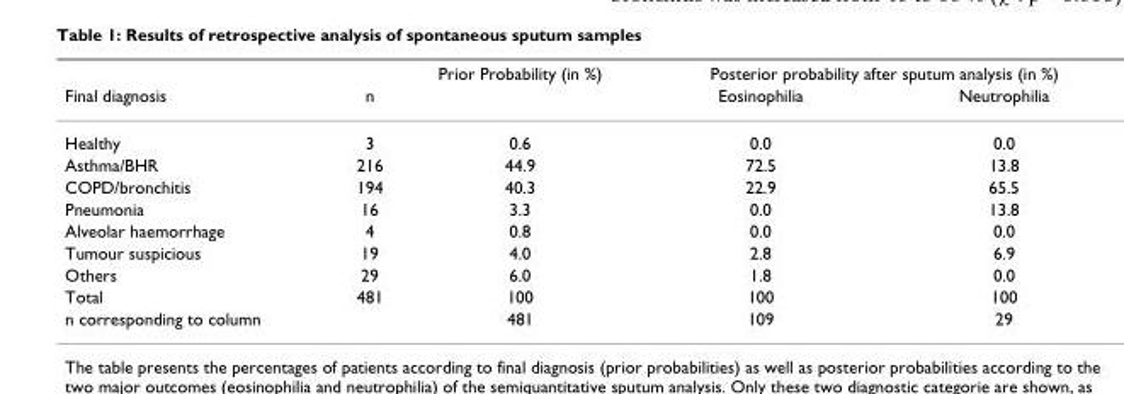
<table><thead><tr><td rowspan="2">Final diagnosis</td><td rowspan="2">n</td><td rowspan="2">Prior Probability (in %)</td><td colspan="2">Posterior probability after sputum analysis (in %)</td></tr><tr><td>Eosinophilia</td><td>Neutrophilia</td></tr></thead><tbody><tr><td>Healthy</td><td>3</td><td>0.6</td><td>0.0</td><td>0.0</td></tr><tr><td>Asthma/BHR</td><td>216</td><td>44.9</td><td>72.5</td><td>13.8</td></tr><tr><td>COPD/bronchitis</td><td>194</td><td>40.3</td><td>22.9</td><td>65.5</td></tr><tr><td>Pneumonia</td><td>16</td><td>3.3</td><td>0.0</td><td>13.8</td></tr><tr><td>Alveolar haemorrhage</td><td>4</td><td>0.8</td><td>0.0</td><td>0.0</td></tr><tr><td>Tumour suspicious</td><td>19</td><td>4.0</td><td>2.8</td><td>6.9</td></tr><tr><td>Others</td><td>29</td><td>6.0</td><td>1.8</td><td>0.0</td></tr><tr><td>Total</td><td>481</td><td>100</td><td>100</td><td>100</td></tr><tr><td>n corresponding to column</td><td></td><td>481</td><td>109</td><td>29</td></tr></tbody></table>